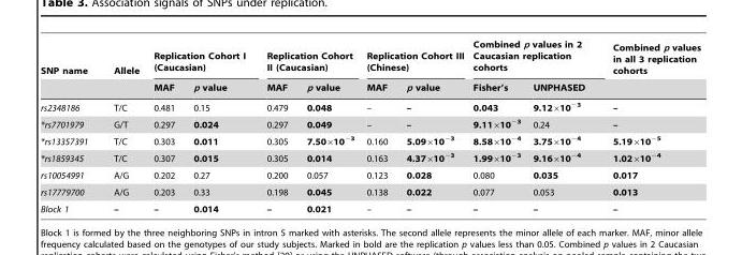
<table><thead><tr><td rowspan="2">SNP name</td><td rowspan="2">Allele</td><td colspan="2">Replication Cohort I (Caucasian)</td><td colspan="2">Replication Cohort II (Caucasian)</td><td colspan="2">Replication Cohort III (Chinese)</td><td colspan="2">Combined p values in 2 Caucasian replication cohorts</td><td rowspan="2">Combined p values in all 3 replication cohorts</td></tr><tr><td>MAF</td><td>p value</td><td>MAF</td><td>p value</td><td>MAF</td><td>p value</td><td>Fisher’s</td><td>UNPHASED</td></tr></thead><tbody><tr><td>rs2348186</td><td>T/C</td><td>0.481</td><td>0.15</td><td>0.479</td><td>0.048</td><td>–</td><td>–</td><td>0.043</td><td>9.12×10<sup>−3</sup></td><td>–</td></tr><tr><td>*rs7701979</td><td>G/T</td><td>0.297</td><td>0.024</td><td>0.297</td><td>0.049</td><td>–</td><td>–</td><td>9.11×10<sup>−3</sup></td><td>0.24</td><td>–</td></tr><tr><td>*rs13357391</td><td>T/C</td><td>0.303</td><td>0.011</td><td>0.305</td><td>7.50×10<sup>−3</sup></td><td>0.160</td><td>5.09×10<sup>−3</sup></td><td>8.58×10<sup>−4</sup></td><td>3.75×10<sup>−4</sup></td><td>5.19×10<sup>−5</sup></td></tr><tr><td>*rs1859345</td><td>T/C</td><td>0.307</td><td>0.015</td><td>0.305</td><td>0.014</td><td>0.163</td><td>4.37×10<sup>−3</sup></td><td>1.99×10<sup>−3</sup></td><td>9.16×10<sup>−4</sup></td><td>1.02×10<sup>−4</sup></td></tr><tr><td>rs10054991</td><td>A/G</td><td>0.202</td><td>0.27</td><td>0.200</td><td>0.057</td><td>0.123</td><td>0.028</td><td>0.080</td><td>0.035</td><td>0.017</td></tr><tr><td>rs17779700</td><td>A/G</td><td>0.203</td><td>0.33</td><td>0.198</td><td>0.045</td><td>0.138</td><td>0.022</td><td>0.077</td><td>0.053</td><td>0.013</td></tr><tr><td>Block 1</td><td>–</td><td>–</td><td>0.014</td><td>–</td><td>0.021</td><td>–</td><td>–</td><td>–</td><td>–</td><td>–</td></tr></tbody></table>